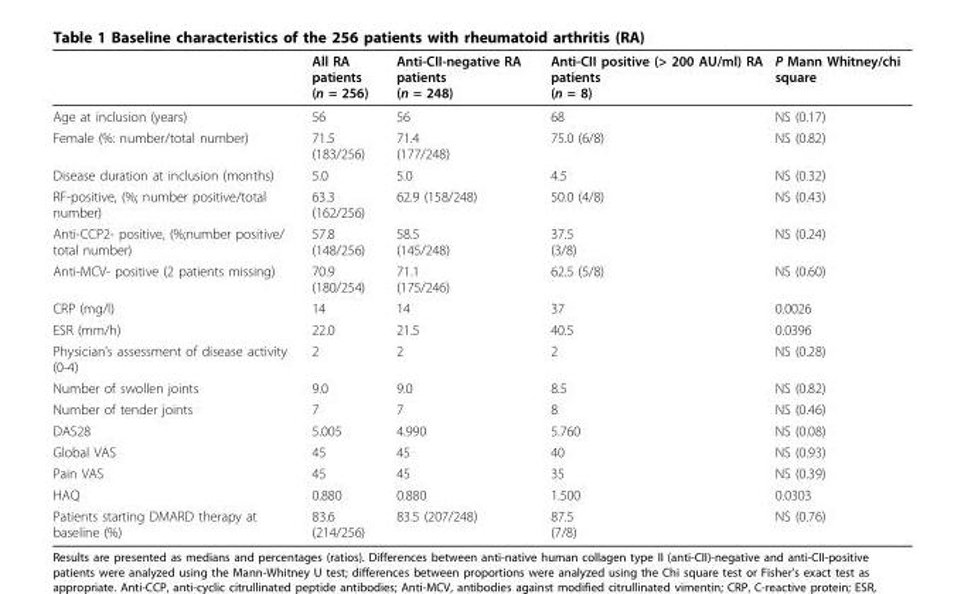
<table><thead><tr><td></td><td>All RA patients (n = 256)</td><td>Anti-CII-negative RA patients (n = 248)</td><td>Anti-CII positive (&gt; 200 AU/ml) RA patients (n = 8)</td><td>P Mann Whitney/chi square</td></tr></thead><tbody><tr><td>Age at inclusion (years)</td><td>56</td><td>56</td><td>68</td><td>NS (0.17)</td></tr><tr><td>Female (%: number/total number)</td><td>71.5 (183/256)</td><td>71.4 (177/248)</td><td>75.0 (6/8)</td><td>NS (0.82)</td></tr><tr><td>Disease duration at inclusion (months)</td><td>5.0</td><td>5.0</td><td>4.5</td><td>NS (0.32)</td></tr><tr><td>RF-positive, (%; number positive/total number)</td><td>63.3 (162/256)</td><td>62.9 (158/248)</td><td>50.0 (4/8)</td><td>NS (0.43)</td></tr><tr><td>Anti-CCP2- positive, (%;number positive/ total number)</td><td>57.8 (148/256)</td><td>58.5 (145/248)</td><td>37.5 (3/8)</td><td>NS (0.24)</td></tr><tr><td>Anti-MCV- positive (2 patients missing)</td><td>70.9 (180/254)</td><td>71.1 (175/246)</td><td>62.5 (5/8)</td><td>NS (0.60)</td></tr><tr><td>CRP (mg/l)</td><td>14</td><td>14</td><td>37</td><td>0.0026</td></tr><tr><td>ESR (mm/h)</td><td>22.0</td><td>21.5</td><td>40.5</td><td>0.0396</td></tr><tr><td>Physician’s assessment of disease activity (0-4)</td><td>2</td><td>2</td><td>2</td><td>NS (0.28)</td></tr><tr><td>Number of swollen joints</td><td>9.0</td><td>9.0</td><td>8.5</td><td>NS (0.82)</td></tr><tr><td>Number of tender joints</td><td>7</td><td>7</td><td>8</td><td>NS (0.46)</td></tr><tr><td>DAS28</td><td>5.005</td><td>4.990</td><td>5.760</td><td>NS (0.08)</td></tr><tr><td>Global VAS</td><td>45</td><td>45</td><td>40</td><td>NS (0.93)</td></tr><tr><td>Pain VAS</td><td>45</td><td>45</td><td>35</td><td>NS (0.39)</td></tr><tr><td>HAQ</td><td>0.880</td><td>0.880</td><td>1.500</td><td>0.0303</td></tr><tr><td>Patients starting DMARD therapy at baseline (%)</td><td>83.6 (214/256)</td><td>83.5 (207/248)</td><td>87.5 (7/8)</td><td>NS (0.76)</td></tr></tbody></table>